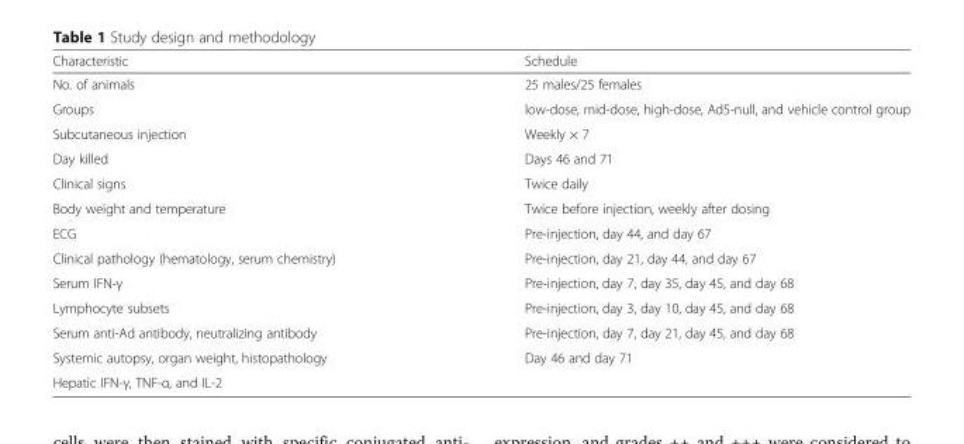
<table><thead><tr><td>Characteristic</td><td>Schedule</td></tr></thead><tbody><tr><td>No. of animals</td><td>25 males/25 females</td></tr><tr><td>Groups</td><td>low-dose, mid-dose, high-dose, Ad5-null, and vehicle control group</td></tr><tr><td>Subcutaneous injection</td><td>Weekly × 7</td></tr><tr><td>Day killed</td><td>Days 46 and 71</td></tr><tr><td>Clinical signs</td><td>Twice daily</td></tr><tr><td>Body weight and temperature</td><td>Twice before injection, weekly after dosing</td></tr><tr><td>ECG</td><td>Pre-injection, day 44, and day 67</td></tr><tr><td>Clinical pathology (hematology, serum chemistry)</td><td>Pre-injection, day 21, day 44, and day 67</td></tr><tr><td>Serum IFN-γ</td><td>Pre-injection, day 7, day 35, day 45, and day 68</td></tr><tr><td>Lymphocyte subsets</td><td>Pre-injection, day 3, day 10, day 45, and day 68</td></tr><tr><td>Serum anti-Ad antibody, neutralizing antibody</td><td>Pre-injection, day 7, day 21, day 45, and day 68</td></tr><tr><td>Systemic autopsy, organ weight, histopathology</td><td rowspan="2">Day 46 and day 71</td></tr><tr><td>Hepatic IFN-γ, TNF-α, and IL-2</td></tr></tbody></table>